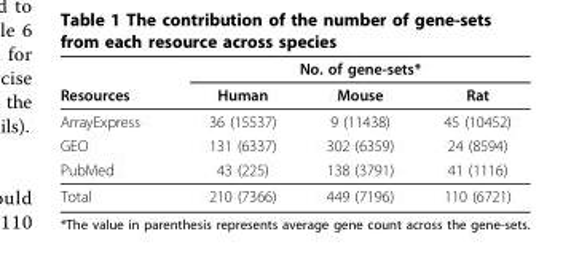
<table><thead><tr><td rowspan="2">Resources</td><td colspan="3">No. of gene-sets*</td></tr><tr><td>Human</td><td>Mouse</td><td>Rat</td></tr></thead><tbody><tr><td>ArrayExpress</td><td>36 (15537)</td><td>9 (11438)</td><td>45 (10452)</td></tr><tr><td>GEO</td><td>131 (6337)</td><td>302 (6359)</td><td>24 (8594)</td></tr><tr><td>PubMed</td><td>43 (225)</td><td>138 (3791)</td><td>41 (1116)</td></tr><tr><td>Total</td><td>210 (7366)</td><td>449 (7196)</td><td>110 (6721)</td></tr></tbody></table>